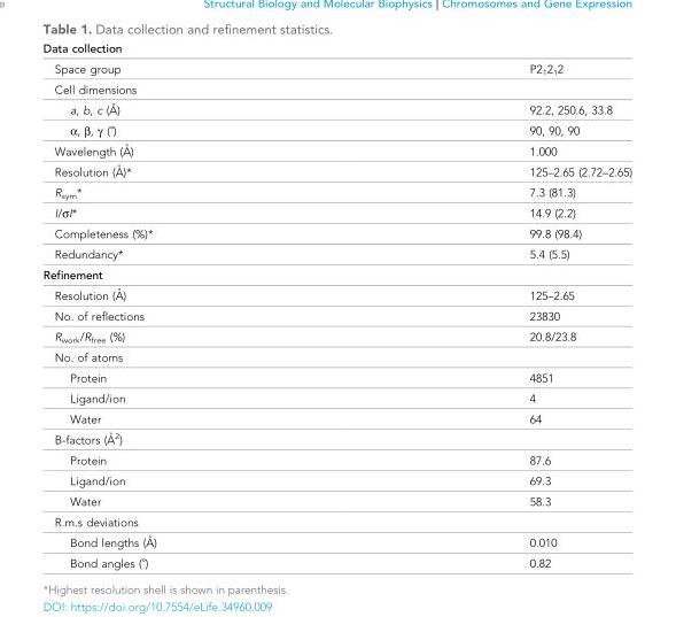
<table><tbody><tr><td colspan="2">Data collection</td></tr><tr><td>Space group</td><td>P2<sub>1</sub>2<sub>1</sub>2</td></tr><tr><td colspan="2">Cell dimensions</td></tr><tr><td>a, b, c (A˚ )</td><td>92.2, 250.6, 33.8</td></tr><tr><td>α, β, γ (˚)</td><td>90, 90, 90</td></tr><tr><td>Wavelength (A˚ )</td><td>1.000</td></tr><tr><td>Resolution (A˚ )*</td><td>125–2.65 (2.72–2.65)</td></tr><tr><td>R<sub>sym</sub>*</td><td>7.3 (81.3)</td></tr><tr><td>I/σI*</td><td>14.9 (2.2)</td></tr><tr><td>Completeness (%)*</td><td>99.8 (98.4)</td></tr><tr><td>Redundancy*</td><td>5.4 (5.5)</td></tr><tr><td colspan="2">Refinement</td></tr><tr><td>Resolution (A˚ )</td><td>125–2.65</td></tr><tr><td>No. of reflections</td><td>23830</td></tr><tr><td>R<sub>work</sub>/R<sub>free</sub> (%)</td><td>20.8/23.8</td></tr><tr><td colspan="2">No. of atoms</td></tr><tr><td>Protein</td><td>4851</td></tr><tr><td>Ligand/ion</td><td>4</td></tr><tr><td>Water</td><td>64</td></tr><tr><td colspan="2">B-factors (A˚ 2)</td></tr><tr><td>Protein</td><td>87.6</td></tr><tr><td>Ligand/ion</td><td>69.3</td></tr><tr><td>Water</td><td>58.3</td></tr><tr><td colspan="2">R.m.s deviations</td></tr><tr><td>Bond lengths (A˚ )</td><td>0.010</td></tr><tr><td>Bond angles (˚)</td><td>0.82</td></tr></tbody></table>